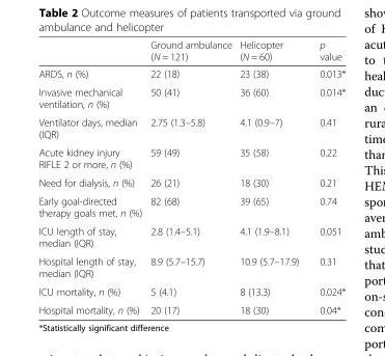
<table><thead><tr><td></td><td>Ground ambulance (N = 121)</td><td>Helicopter (N = 60)</td><td>p value</td></tr></thead><tbody><tr><td>ARDS, n (%)</td><td>22 (18)</td><td>23 (38)</td><td>0.013*</td></tr><tr><td>Invasive mechanical ventilation, n (%)</td><td>50 (41)</td><td>36 (60)</td><td>0.014*</td></tr><tr><td>Ventilator days, median (IQR)</td><td>2.75 (1.3–5.8)</td><td>4.1 (0.9–7)</td><td>0.41</td></tr><tr><td>Acute kidney injury RIFLE 2 or more, n (%)</td><td>59 (49)</td><td>35 (58)</td><td>0.22</td></tr><tr><td>Need for dialysis, n (%)</td><td>26 (21)</td><td>18 (30)</td><td>0.21</td></tr><tr><td>Early goal-directed therapy goals met, n (%)</td><td>82 (68)</td><td>39 (65)</td><td>0.74</td></tr><tr><td>ICU length of stay, median (IQR)</td><td>2.8 (1.4–5.1)</td><td>4.1 (1.9–8.1)</td><td>0.051</td></tr><tr><td>Hospital length of stay, median (IQR)</td><td>8.9 (5.7–15.7)</td><td>10.9 (5.7–17.9)</td><td>0.31</td></tr><tr><td>ICU mortality, n (%)</td><td>5 (4.1)</td><td>8 (13.3)</td><td>0.024*</td></tr><tr><td>Hospital mortality, n (%)</td><td>20 (17)</td><td>18 (30)</td><td>0.04*</td></tr></tbody></table>